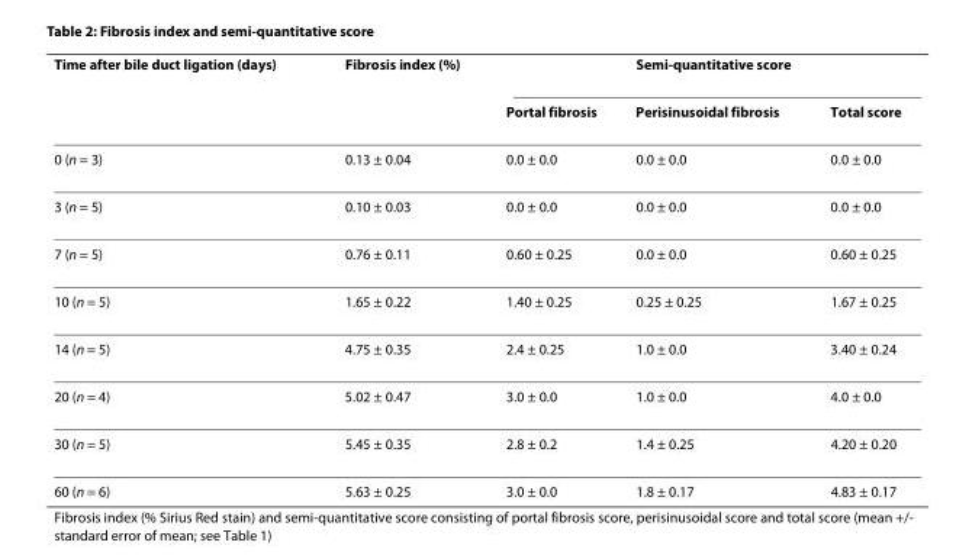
<table><thead><tr><td rowspan="2">Time after bile duct ligation (days)</td><td rowspan="2">Fibrosis index (%)</td><td colspan="3">Semi-quantitative score</td></tr><tr><td>Portal fibrosis</td><td>Perisinusoidal fibrosis</td><td>Total score</td></tr></thead><tbody><tr><td>0 (n = 3)</td><td>0.13 ± 0.04</td><td>0.0 ± 0.0</td><td>0.0 ± 0.0</td><td>0.0 ± 0.0</td></tr><tr><td>3 (n = 5)</td><td>0.10 ± 0.03</td><td>0.0 ± 0.0</td><td>0.0 ± 0.0</td><td>0.0 ± 0.0</td></tr><tr><td>7 (n = 5)</td><td>0.76 ± 0.11</td><td>0.60 ± 0.25</td><td>0.0 ± 0.0</td><td>0.60 ± 0.25</td></tr><tr><td>10 (n = 5)</td><td>1.65 ± 0.22</td><td>1.40 ± 0.25</td><td>0.25 ± 0.25</td><td>1.67 ± 0.25</td></tr><tr><td>14 (n = 5)</td><td>4.75 ± 0.35</td><td>2.4 ± 0.25</td><td>1.0 ± 0.0</td><td>3.40 ± 0.24</td></tr><tr><td>20 (n = 4)</td><td>5.02 ± 0.47</td><td>3.0 ± 0.0</td><td>1.0 ± 0.0</td><td>4.0 ± 0.0</td></tr><tr><td>30 (n = 5)</td><td>5.45 ± 0.35</td><td>2.8 ± 0.2</td><td>1.4 ± 0.25</td><td>4.20 ± 0.20</td></tr><tr><td>60 (n = 6)</td><td>5.63 ± 0.25</td><td>3.0 ± 0.0</td><td>1.8 ± 0.17</td><td>4.83 ± 0.17</td></tr></tbody></table>